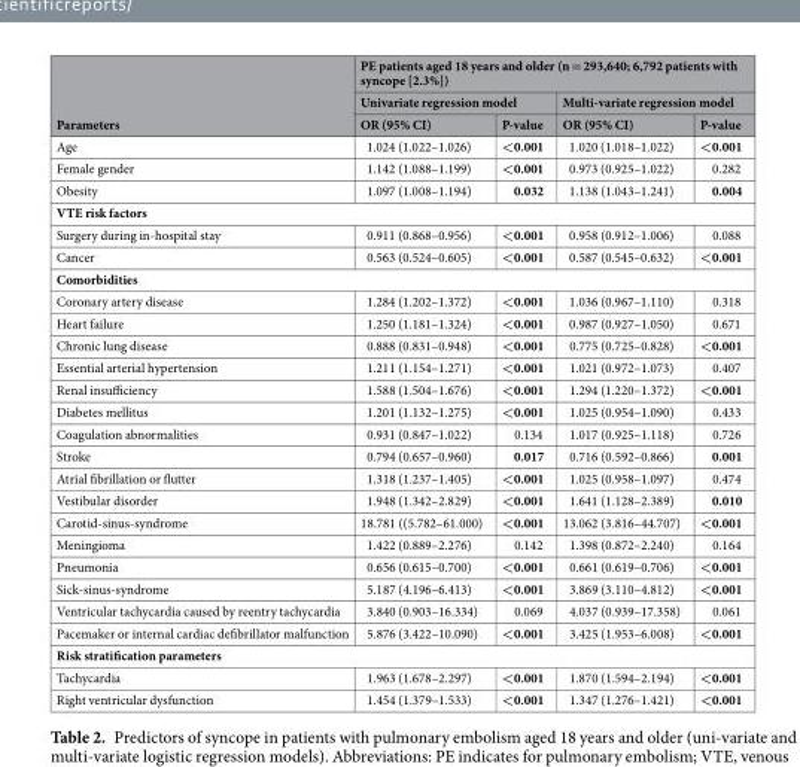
<table><thead><tr><td rowspan="3">Parameters</td><td colspan="4">PE patients aged 18 years and older (n = 293,640; 6,792 patients with syncope [2.3%])</td></tr><tr><td colspan="2">Univariate regression model</td><td colspan="2">Multi-variate regression model</td></tr><tr><td>OR (95% CI)</td><td>P-value</td><td>OR (95% CI)</td><td>P-value</td></tr></thead><tbody><tr><td>Age</td><td>1.024 (1.022–1.026)</td><td>&lt;0.001</td><td>1.020 (1.018–1.022)</td><td>&lt;0.001</td></tr><tr><td>Female gender</td><td>1.142 (1.088–1.199)</td><td>&lt;0.001</td><td>0.973 (0.925–1.022)</td><td>0.282</td></tr><tr><td>Obesity</td><td>1.097 (1.008–1.194)</td><td>0.032</td><td>1.138 (1.043–1.241)</td><td>0.004</td></tr><tr><td colspan="5">VTE risk factors</td></tr><tr><td>Surgery during in-hospital stay</td><td>0.911 (0.868–0.956)</td><td>&lt;0.001</td><td>0.958 (0.912–1.006)</td><td>0.088</td></tr><tr><td>Cancer</td><td>0.563 (0.524–0.605)</td><td>&lt;0.001</td><td>0.587 (0.545–0.632)</td><td>&lt;0.001</td></tr><tr><td colspan="5">Comorbidities</td></tr><tr><td>Coronary artery disease</td><td>1.284 (1.202–1.372)</td><td>&lt;0.001</td><td>1.036 (0.967–1.110)</td><td>0.318</td></tr><tr><td>Heart failure</td><td>1.250 (1.181–1.324)</td><td>&lt;0.001</td><td>0.987 (0.927–1.050)</td><td>0.671</td></tr><tr><td>Chronic lung disease</td><td>0.888 (0.831–0.948)</td><td>&lt;0.001</td><td>0.775 (0.725–0.828)</td><td>&lt;0.001</td></tr><tr><td>Essential arterial hypertension</td><td>1.211 (1.154–1.271)</td><td>&lt;0.001</td><td>1.021 (0.972–1.073)</td><td>0.407</td></tr><tr><td>Renal insufficiency</td><td>1.588 (1.504–1.676)</td><td>&lt;0.001</td><td>1.294 (1.220–1.372)</td><td>&lt;0.001</td></tr><tr><td>Diabetes mellitus</td><td>1.201 (1.132–1.275)</td><td>&lt;0.001</td><td>1.025 (0.954–1.090)</td><td>0.433</td></tr><tr><td>Coagulation abnormalities</td><td>0.931 (0.847–1.022)</td><td>0.134</td><td>1.017 (0.925–1.118)</td><td>0.726</td></tr><tr><td>Stroke</td><td>0.794 (0.657–0.960)</td><td>0.017</td><td>0.716 (0.592–0.866)</td><td>0.001</td></tr><tr><td>Atrial fibrillation or flutter</td><td>1.318 (1.237–1.405)</td><td>&lt;0.001</td><td>1.025 (0.958–1.097)</td><td>0.474</td></tr><tr><td>Vestibular disorder</td><td>1.948 (1.342–2.829)</td><td>&lt;0.001</td><td>1.641 (1.128–2.389)</td><td>0.010</td></tr><tr><td>Carotid-sinus-syndrome</td><td>18.781 ((5.782–61.000)</td><td>&lt;0.001</td><td>13.062 (3.816–44.707)</td><td>&lt;0.001</td></tr><tr><td>Meningioma</td><td>1.422 (0.889–2.276)</td><td>0.142</td><td>1.398 (0.872–2.240)</td><td>0.164</td></tr><tr><td>Pneumonia</td><td>0.656 (0.615–0.700)</td><td>&lt;0.001</td><td>0.661 (0.619–0.706)</td><td>&lt;0.001</td></tr><tr><td>Sick-sinus-syndrome</td><td>5.187 (4.196–6.413)</td><td>&lt;0.001</td><td>3.869 (3.110–4.812)</td><td>&lt;0.001</td></tr><tr><td>Ventricular tachycardia caused by reentry tachycardia</td><td>3.840 (0.903–16.334)</td><td>0.069</td><td>4.037 (0.939–17.358)</td><td>0.061</td></tr><tr><td>Pacemaker or internal cardiac defibrillator malfunction</td><td>5.876 (3.422–10.090)</td><td>&lt;0.001</td><td>3.425 (1.953–6.008)</td><td>&lt;0.001</td></tr><tr><td colspan="5">Risk stratification parameters</td></tr><tr><td>Tachycardia</td><td>1.963 (1.678–2.297)</td><td>&lt;0.001</td><td>1.870 (1.594–2.194)</td><td>&lt;0.001</td></tr><tr><td>Right ventricular dysfunction</td><td>1.454 (1.379–1.533)</td><td>&lt;0.001</td><td>1.347 (1.276–1.421)</td><td>&lt;0.001</td></tr></tbody></table>